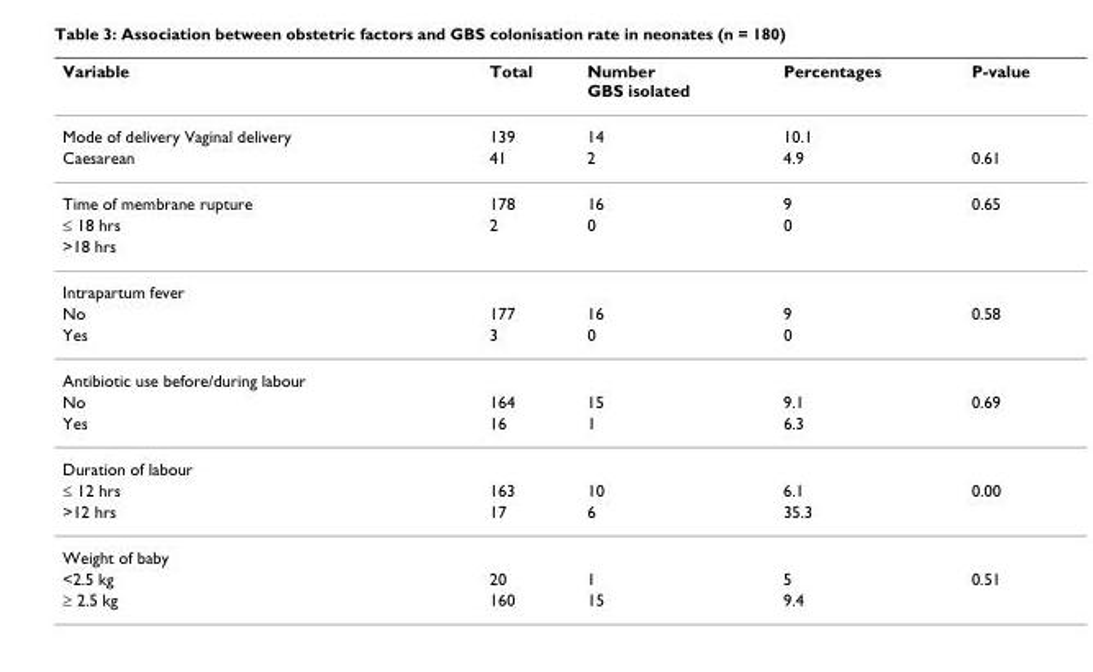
<table><thead><tr><td>Variable</td><td>Total</td><td>Number GBS isolated</td><td>Percentages</td><td>P-value</td></tr></thead><tbody><tr><td>Mode of delivery Vaginal delivery</td><td>139</td><td>14</td><td>10.1</td><td></td></tr><tr><td>Caesarean</td><td>41</td><td>2</td><td>4.9</td><td>0.61</td></tr><tr><td>Time of membrane rupture</td><td>178</td><td>16</td><td>9</td><td>0.65</td></tr><tr><td>≤ 18 hrs</td><td>2</td><td>0</td><td>0</td><td></td></tr><tr><td colspan="5">&gt;18 hrs</td></tr><tr><td colspan="5">Intrapartum fever</td></tr><tr><td>No</td><td>177</td><td>16</td><td>9</td><td>0.58</td></tr><tr><td>Yes</td><td>3</td><td>0</td><td>0</td><td></td></tr><tr><td colspan="5">Antibiotic use before/during labour</td></tr><tr><td>No</td><td>164</td><td>15</td><td>9.1</td><td>0.69</td></tr><tr><td>Yes</td><td>16</td><td>1</td><td>6.3</td><td></td></tr><tr><td colspan="5">Duration of labour</td></tr><tr><td>≤ 12 hrs</td><td>163</td><td>10</td><td>6.1</td><td>0.00</td></tr><tr><td>&gt;12 hrs</td><td>17</td><td>6</td><td>35.3</td><td></td></tr><tr><td colspan="5">Weight of baby</td></tr><tr><td>&lt;2.5 kg</td><td>20</td><td>1</td><td>5</td><td>0.51</td></tr><tr><td>≥ 2.5 kg</td><td>160</td><td>15</td><td>9.4</td><td></td></tr></tbody></table>